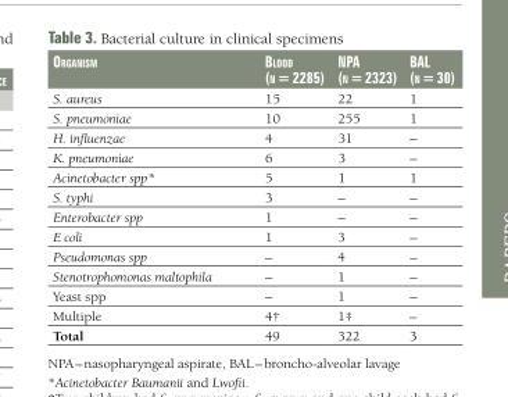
<table><thead><tr><td>OrgAnism</td><td>BlOOd (n = 2285)</td><td>nPA (n = 2323)</td><td>BAl (n = 30)</td></tr></thead><tbody><tr><td>S. aureus</td><td>15</td><td>22</td><td>1</td></tr><tr><td>S. pneumoniae</td><td>10</td><td>255</td><td>1</td></tr><tr><td>H. influenzae</td><td>4</td><td>31</td><td>–</td></tr><tr><td>K. pneumoniae</td><td>6</td><td>3</td><td>–</td></tr><tr><td>Acinetobacter spp*</td><td>5</td><td>1</td><td>1</td></tr><tr><td>S. typhi</td><td>3</td><td>–</td><td>–</td></tr><tr><td>Enterobacter spp</td><td>1</td><td>–</td><td>–</td></tr><tr><td>E coli</td><td>1</td><td>3</td><td>–</td></tr><tr><td>Pseudomonas spp</td><td>–</td><td>4</td><td>–</td></tr><tr><td>Stenotrophomonas maltophila</td><td>–</td><td>1</td><td>–</td></tr><tr><td>Yeast spp</td><td>–</td><td>1</td><td>–</td></tr><tr><td>Multiple</td><td>4†</td><td>1‡</td><td>–</td></tr><tr><td>Total</td><td>49</td><td>322</td><td>3</td></tr></tbody></table>